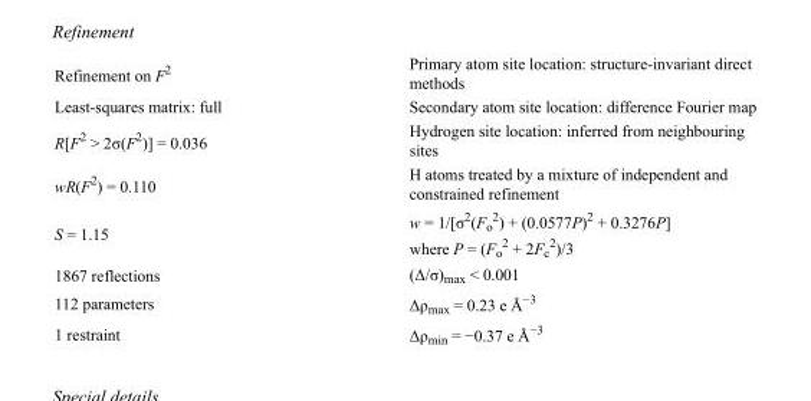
<table><tbody><tr><td>Refinement on F<sup>2</sup></td><td>Primary atom site location: structure-invariant direct methods</td></tr><tr><td>Least-squares matrix: full</td><td>Secondary atom site location: difference Fourier map</td></tr><tr><td>R[F<sup>2</sup> &gt; 2σ(F<sup>2</sup>)] = 0.036</td><td>Hydrogen site location: inferred from neighbouring sites</td></tr><tr><td>wR(F<sup>2</sup>) = 0.110</td><td>H atoms treated by a mixture of independent and constrained refinement</td></tr><tr><td>S = 1.15</td><td>w = 1/[σ<sup>2</sup>(F<sub>o</sub> <sup>2</sup>) + (0.0577P)<sup>2</sup> + 0.3276P] where P = (F<sub>o</sub> <sup>2</sup> + 2F<sub>c</sub> <sup>2</sup>)/3</td></tr><tr><td>1867 reflections</td><td>(Δ/σ)<sub>max</sub> &lt; 0.001</td></tr><tr><td>112 parameters</td><td>Δρ<sub>max</sub> = 0.23 e Å<sup>−3</sup></td></tr><tr><td>1 restraint</td><td>Δρ<sub>min</sub> = −0.37 e Å<sup>−3</sup></td></tr></tbody></table>